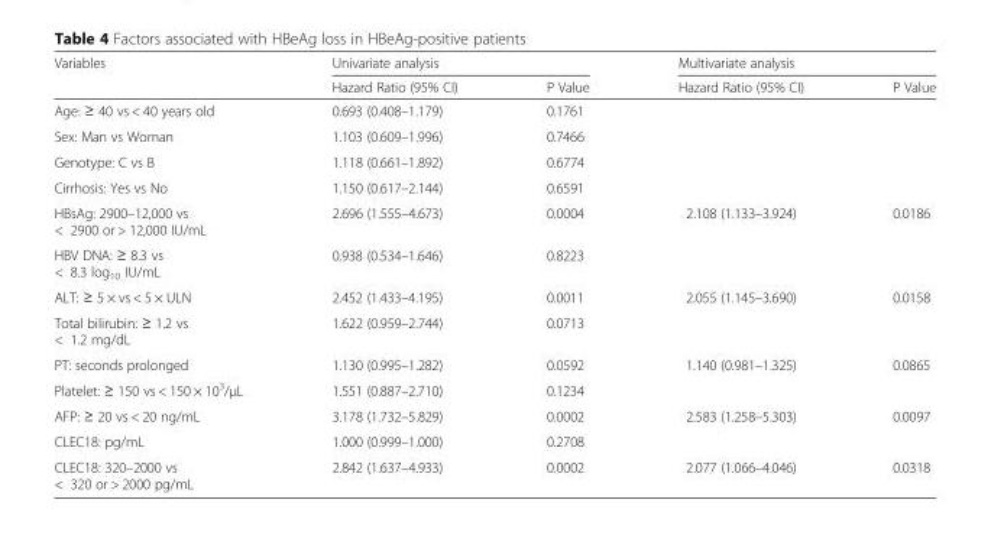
<table><thead><tr><td rowspan="2">Variables</td><td colspan="2">Univariate analysis</td><td colspan="2">Multivariate analysis</td></tr><tr><td>Hazard Ratio (95% CI)</td><td>P Value</td><td>Hazard Ratio (95% CI)</td><td>P Value</td></tr></thead><tbody><tr><td>Age: ≥ 40 vs &lt; 40 years old</td><td>0.693 (0.408–1.179)</td><td>0.1761</td><td rowspan="4" colspan="2"></td></tr><tr><td>Sex: Man vs Woman</td><td>1.103 (0.609–1.996)</td><td>0.7466</td></tr><tr><td>Genotype: C vs B</td><td>1.118 (0.661–1.892)</td><td>0.6774</td></tr><tr><td>Cirrhosis: Yes vs No</td><td>1.150 (0.617–2.144)</td><td>0.6591</td></tr><tr><td>HBsAg: 2900–12,000 vs &lt; 2900 or &gt; 12,000 IU/mL</td><td>2.696 (1.555–4.673)</td><td>0.0004</td><td>2.108 (1.133–3.924)</td><td>0.0186</td></tr><tr><td>HBV DNA: ≥ 8.3 vs &lt; 8.3 log<sub>10</sub> IU/mL</td><td>0.938 (0.534–1.646)</td><td>0.8223</td><td colspan="2"></td></tr><tr><td>ALT: ≥ 5 × vs &lt; 5 × ULN</td><td>2.452 (1.433–4.195)</td><td>0.0011</td><td>2.055 (1.145–3.690)</td><td>0.0158</td></tr><tr><td>Total bilirubin: ≥ 1.2 vs &lt; 1.2 mg/dL</td><td>1.622 (0.959–2.744)</td><td>0.0713</td><td colspan="2"></td></tr><tr><td>PT: seconds prolonged</td><td>1.130 (0.995–1.282)</td><td>0.0592</td><td>1.140 (0.981–1.325)</td><td>0.0865</td></tr><tr><td>Platelet: ≥ 150 vs &lt; 150 × 10<sup>3</sup>/μL</td><td>1.551 (0.887–2.710)</td><td>0.1234</td><td colspan="2"></td></tr><tr><td>AFP: ≥ 20 vs &lt; 20 ng/mL</td><td>3.178 (1.732–5.829)</td><td>0.0002</td><td>2.583 (1.258–5.303)</td><td>0.0097</td></tr><tr><td>CLEC18: pg/mL</td><td>1.000 (0.999–1.000)</td><td>0.2708</td><td colspan="2"></td></tr><tr><td>CLEC18: 320–2000 vs &lt; 320 or &gt; 2000 pg/mL</td><td>2.842 (1.637–4.933)</td><td>0.0002</td><td>2.077 (1.066–4.046)</td><td>0.0318</td></tr></tbody></table>